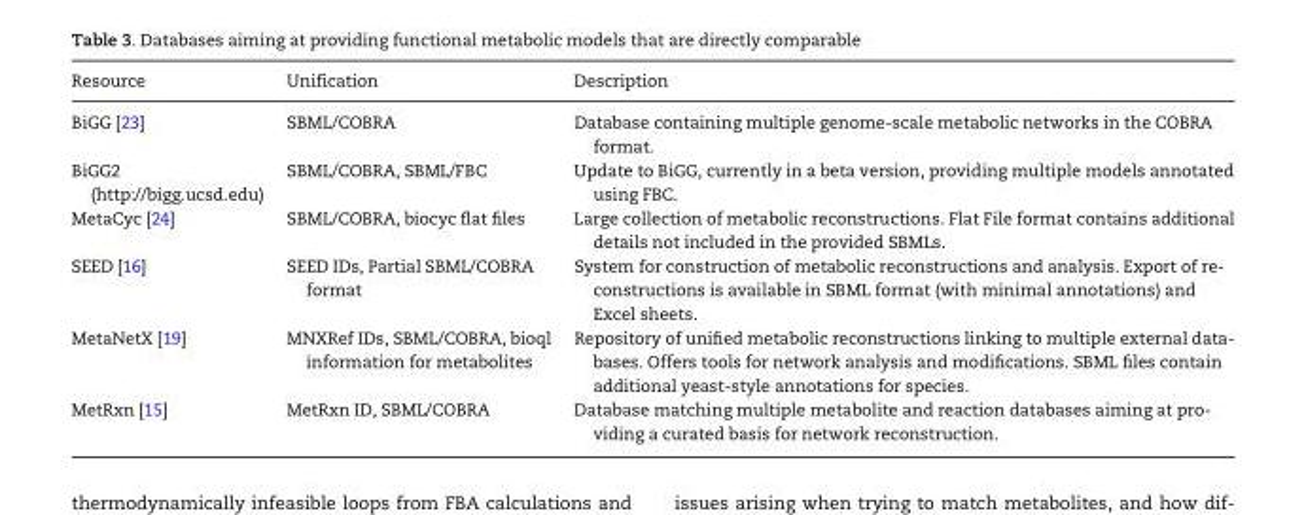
<table><thead><tr><td>Resource</td><td>Unification</td><td>Description</td></tr></thead><tbody><tr><td>BiGG [23]</td><td>SBML/COBRA</td><td>Database containing multiple genome-scale metabolic networks in the COBRA format.</td></tr><tr><td>BiGG2 (http://bigg.ucsd.edu)</td><td>SBML/COBRA, SBML/FBC</td><td>Update to BiGG, currently in a beta version, providing multiple models annotated using FBC.</td></tr><tr><td>MetaCyc [24]</td><td>SBML/COBRA, biocyc flat files</td><td>Large collection of metabolic reconstructions. Flat File format contains additional details not included in the provided SBMLs.</td></tr><tr><td>SEED [16]</td><td>SEED IDs, Partial SBML/COBRA format</td><td>System for construction of metabolic reconstructions and analysis. Export of re- constructions is available in SBML format (with minimal annotations) and Excel sheets.</td></tr><tr><td>MetaNetX [19]</td><td>MNXRef IDs, SBML/COBRA, bioql information for metabolites</td><td>Repository of unified metabolic reconstructions linking to multiple external data- bases. Offers tools for network analysis and modifications. SBML files contain additional yeast-style annotations for species.</td></tr><tr><td>MetRxn [15]</td><td>MetRxn ID, SBML/COBRA</td><td>Database matching multiple metabolite and reaction databases aiming at pro- viding a curated basis for network reconstruction.</td></tr></tbody></table>